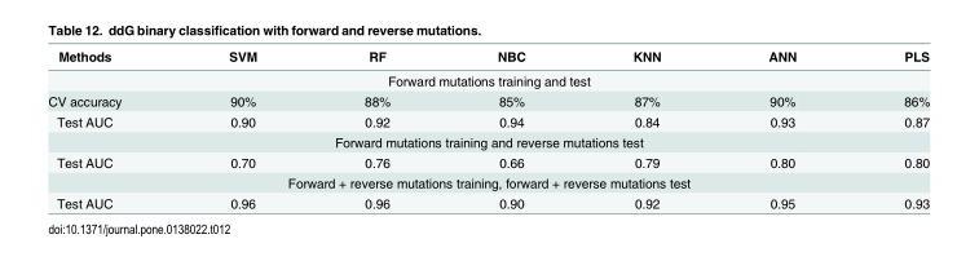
<table><thead><tr><td>Methods</td><td>SVM</td><td>RF</td><td>NBC</td><td>KNN</td><td>ANN</td><td>PLS</td></tr></thead><tbody><tr><td colspan="7">Forward mutations training and test</td></tr><tr><td>CV accuracy</td><td>90%</td><td>88%</td><td>85%</td><td>87%</td><td>90%</td><td>86%</td></tr><tr><td>Test AUC</td><td>0.90</td><td>0.92</td><td>0.94</td><td>0.84</td><td>0.93</td><td>0.87</td></tr><tr><td colspan="7">Forward mutations training and reverse mutations test</td></tr><tr><td>Test AUC</td><td>0.70</td><td>0.76</td><td>0.66</td><td>0.79</td><td>0.80</td><td>0.80</td></tr><tr><td colspan="7">Forward + reverse mutations training, forward + reverse mutations test</td></tr><tr><td>Test AUC</td><td>0.96</td><td>0.96</td><td>0.90</td><td>0.92</td><td>0.95</td><td>0.93</td></tr></tbody></table>